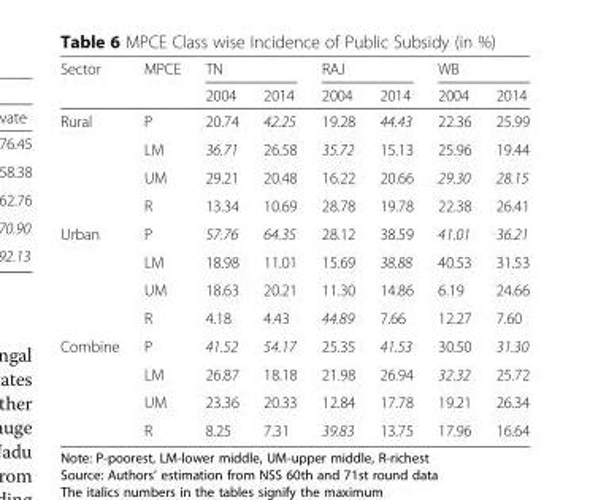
<table><thead><tr><td rowspan="2">Sector</td><td rowspan="2">MPCE</td><td colspan="2">TN</td><td colspan="2">RAJ</td><td colspan="2">WB</td></tr><tr><td>2004</td><td>2014</td><td>2004</td><td>2014</td><td>2004</td><td>2014</td></tr></thead><tbody><tr><td rowspan="4">Rural</td><td>P</td><td>20.74</td><td>42.25</td><td>19.28</td><td>44.43</td><td>22.36</td><td>25.99</td></tr><tr><td>LM</td><td>36.71</td><td>26.58</td><td>35.72</td><td>15.13</td><td>25.96</td><td>19.44</td></tr><tr><td>UM</td><td>29.21</td><td>20.48</td><td>16.22</td><td>20.66</td><td>29.30</td><td>28.15</td></tr><tr><td>R</td><td>13.34</td><td>10.69</td><td>28.78</td><td>19.78</td><td>22.38</td><td>26.41</td></tr><tr><td rowspan="4">Urban</td><td>P</td><td>57.76</td><td>64.35</td><td>28.12</td><td>38.59</td><td>41.01</td><td>36.21</td></tr><tr><td>LM</td><td>18.98</td><td>11.01</td><td>15.69</td><td>38.88</td><td>40.53</td><td>31.53</td></tr><tr><td>UM</td><td>18.63</td><td>20.21</td><td>11.30</td><td>14.86</td><td>6.19</td><td>24.66</td></tr><tr><td>R</td><td>4.18</td><td>4.43</td><td>44.89</td><td>7.66</td><td>12.27</td><td>7.60</td></tr><tr><td rowspan="4">Combine</td><td>P</td><td>41.52</td><td>54.17</td><td>25.35</td><td>41.53</td><td>30.50</td><td>31.30</td></tr><tr><td>LM</td><td>26.87</td><td>18.18</td><td>21.98</td><td>26.94</td><td>32.32</td><td>25.72</td></tr><tr><td>UM</td><td>23.36</td><td>20.33</td><td>12.84</td><td>17.78</td><td>19.21</td><td>26.34</td></tr><tr><td>R</td><td>8.25</td><td>7.31</td><td>39.83</td><td>13.75</td><td>17.96</td><td>16.64</td></tr></tbody></table>